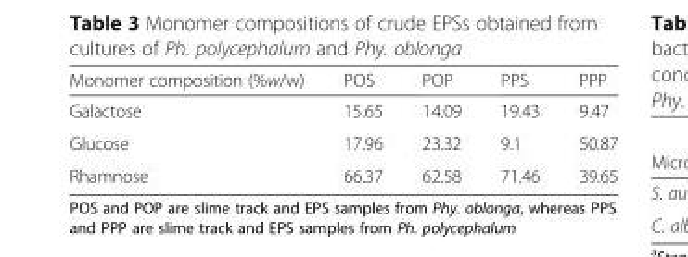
<table><thead><tr><td>Monomer composition (%w/w)</td><td>POS</td><td>POP</td><td>PPS</td><td>PPP</td></tr></thead><tbody><tr><td>Galactose</td><td>15.65</td><td>14.09</td><td>19.43</td><td>9.47</td></tr><tr><td>Glucose</td><td>17.96</td><td>23.32</td><td>9.1</td><td>50.87</td></tr><tr><td>Rhamnose</td><td>66.37</td><td>62.58</td><td>71.46</td><td>39.65</td></tr></tbody></table>